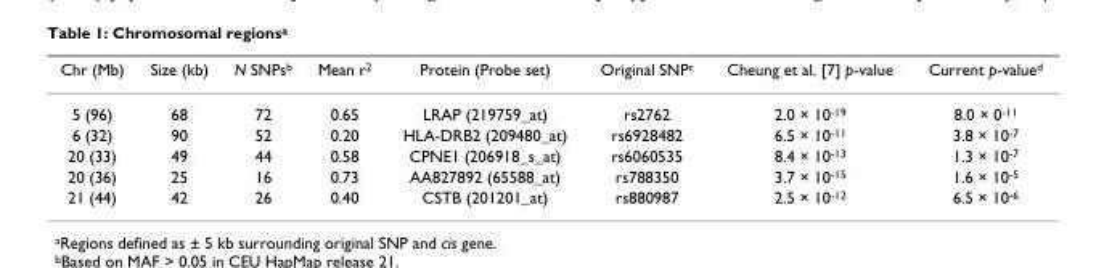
<table><thead><tr><td>Chr (Mb)</td><td>Size (kb)</td><td>N SNPs<sup>b</sup></td><td>Mean r<sup>2</sup></td><td>Protein (Probe set)</td><td>Original SNP<sup>c</sup></td><td>Cheung et al. [7] p-value</td><td>Current p-value<sup>d</sup></td></tr></thead><tbody><tr><td>5 (96)</td><td>68</td><td>72</td><td>0.65</td><td>LRAP (219759_at)</td><td>rs2762</td><td>2.0 × 10<sup>-19</sup></td><td>8.0 × 0<sup>-11</sup></td></tr><tr><td>6 (32)</td><td>90</td><td>52</td><td>0.20</td><td>HLA-DRB2 (209480_at)</td><td>rs6928482</td><td>6.5 × 10<sup>-11</sup></td><td>3.8 × 10<sup>-7</sup></td></tr><tr><td>20 (33)</td><td>49</td><td>44</td><td>0.58</td><td>CPNE1 (206918_s_at)</td><td>rs6060535</td><td>8.4 × 10<sup>-13</sup></td><td>1.3 × 10<sup>-7</sup></td></tr><tr><td>20 (36)</td><td>25</td><td>16</td><td>0.73</td><td>AA827892 (65588_at)</td><td>rs788350</td><td>3.7 × 10<sup>-15</sup></td><td>1.6 × 10<sup>-5</sup></td></tr><tr><td>21 (44)</td><td>42</td><td>26</td><td>0.40</td><td>CSTB (201201_at)</td><td>rs880987</td><td>2.5 × 10<sup>-12</sup></td><td>6.5 × 10<sup>-6</sup></td></tr></tbody></table>